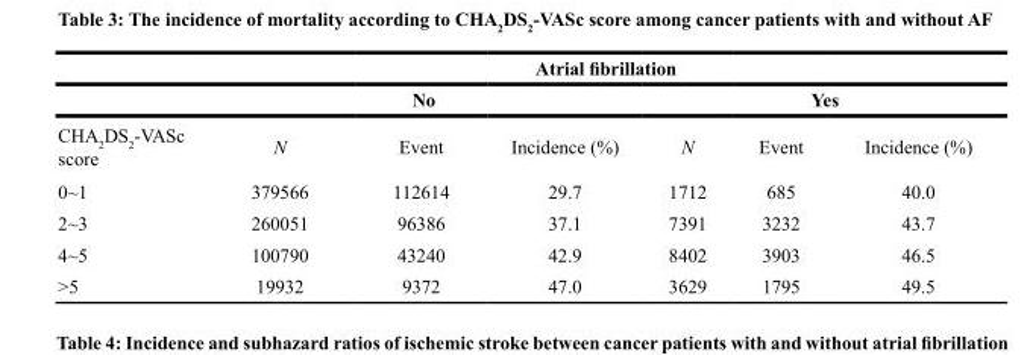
<table><thead><tr><td rowspan="3">CHA<sub>2</sub>DS<sub>2</sub>-VASc score</td><td colspan="6">Atrial fibrillation</td></tr><tr><td colspan="3">No</td><td colspan="3">Yes</td></tr><tr><td>N</td><td>Event</td><td>Incidence (%)</td><td>N</td><td>Event</td><td>Incidence (%)</td></tr></thead><tbody><tr><td>0~1</td><td>379566</td><td>112614</td><td>29.7</td><td>1712</td><td>685</td><td>40.0</td></tr><tr><td>2~3</td><td>260051</td><td>96386</td><td>37.1</td><td>7391</td><td>3232</td><td>43.7</td></tr><tr><td>4~5</td><td>100790</td><td>43240</td><td>42.9</td><td>8402</td><td>3903</td><td>46.5</td></tr><tr><td>&gt;5</td><td>19932</td><td>9372</td><td>47.0</td><td>3629</td><td>1795</td><td>49.5</td></tr></tbody></table>